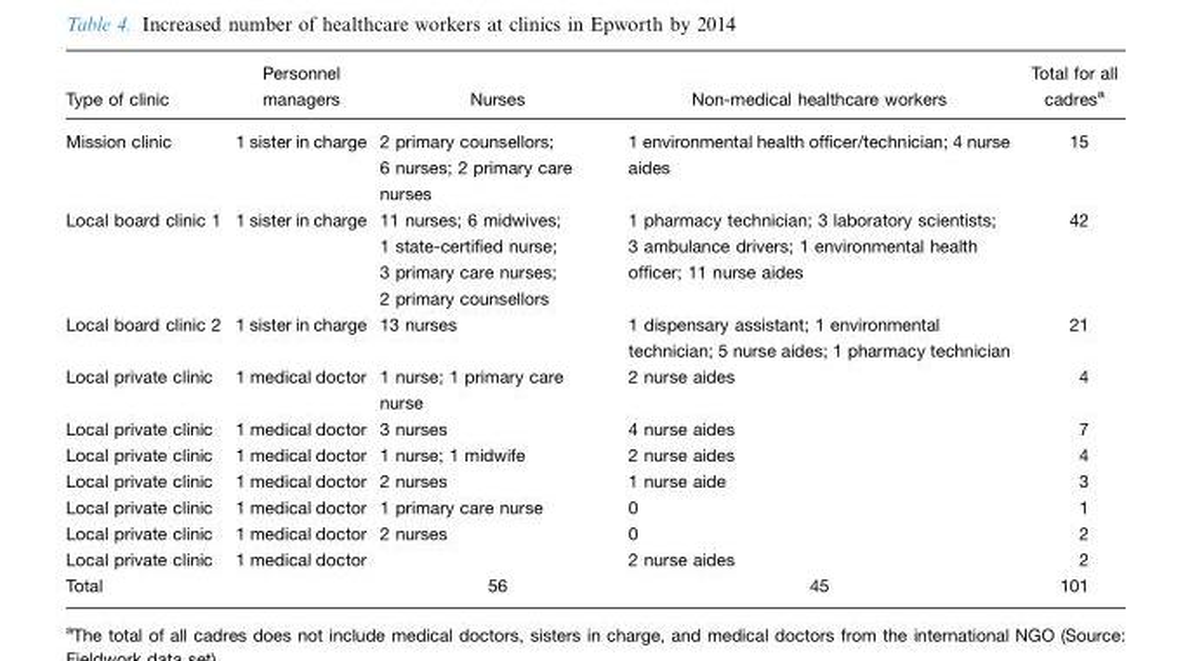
<table><thead><tr><td>Type of clinic</td><td>Personnel managers</td><td>Nurses</td><td>Non-medical healthcare workers</td><td>Total for all cadres<sup>a</sup></td></tr></thead><tbody><tr><td>Mission clinic</td><td>1 sister in charge</td><td>2 primary counsellors; 6 nurses; 2 primary care nurses</td><td>1 environmental health officer/technician; 4 nurse aides</td><td>15</td></tr><tr><td>Local board clinic 1</td><td>1 sister in charge</td><td>11 nurses; 6 midwives; 1 state-certified nurse; 3 primary care nurses; 2 primary counsellors</td><td>1 pharmacy technician; 3 laboratory scientists; 3 ambulance drivers; 1 environmental health officer; 11 nurse aides</td><td>42</td></tr><tr><td>Local board clinic 2</td><td>1 sister in charge</td><td>13 nurses</td><td>1 dispensary assistant; 1 environmental technician; 5 nurse aides; 1 pharmacy technician</td><td>21</td></tr><tr><td>Local private clinic</td><td>1 medical doctor</td><td>1 nurse; 1 primary care nurse</td><td>2 nurse aides</td><td>4</td></tr><tr><td>Local private clinic</td><td>1 medical doctor</td><td>3 nurses</td><td>4 nurse aides</td><td>7</td></tr><tr><td>Local private clinic</td><td>1 medical doctor</td><td>1 nurse; 1 midwife</td><td>2 nurse aides</td><td>4</td></tr><tr><td>Local private clinic</td><td>1 medical doctor</td><td>2 nurses</td><td>1 nurse aide</td><td>3</td></tr><tr><td>Local private clinic</td><td>1 medical doctor</td><td>1 primary care nurse</td><td>0</td><td>1</td></tr><tr><td>Local private clinic</td><td>1 medical doctor</td><td>2 nurses</td><td>0</td><td>2</td></tr><tr><td>Local private clinic</td><td>1 medical doctor</td><td></td><td>2 nurse aides</td><td>2</td></tr><tr><td>Total</td><td></td><td>56</td><td>45</td><td>101</td></tr></tbody></table>